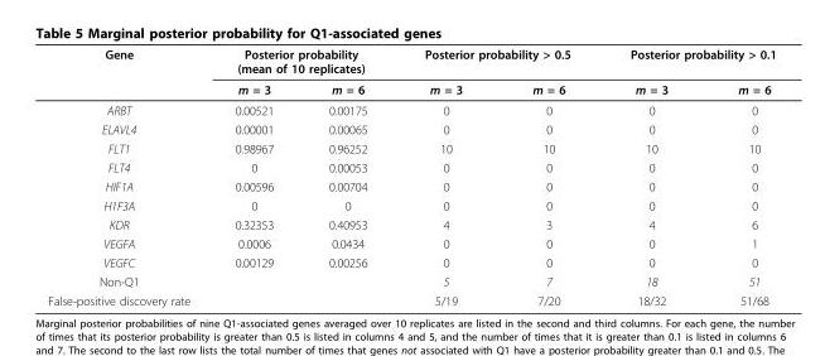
<table><thead><tr><td rowspan="2">Gene</td><td colspan="2">Posterior probability (mean of 10 replicates)</td><td colspan="2">Posterior probability &gt; 0.5</td><td colspan="2">Posterior probability &gt; 0.1</td></tr><tr><td>m = 3</td><td>m = 6</td><td>m = 3</td><td>m = 6</td><td>m = 3</td><td>m = 6</td></tr></thead><tbody><tr><td>ARBT</td><td>0.00521</td><td>0.00175</td><td>0</td><td>0</td><td>0</td><td>0</td></tr><tr><td>ELAVL4</td><td>0.00001</td><td>0.00065</td><td>0</td><td>0</td><td>0</td><td>0</td></tr><tr><td>FLT1</td><td>0.98967</td><td>0.96252</td><td>10</td><td>10</td><td>10</td><td>10</td></tr><tr><td>FLT4</td><td>0</td><td>0.00053</td><td>0</td><td>0</td><td>0</td><td>0</td></tr><tr><td>HIF1A</td><td>0.00596</td><td>0.00704</td><td>0</td><td>0</td><td>0</td><td>0</td></tr><tr><td>H1F3A</td><td>0</td><td>0</td><td>0</td><td>0</td><td>0</td><td>0</td></tr><tr><td>KDR</td><td>0.32353</td><td>0.40953</td><td>4</td><td>3</td><td>4</td><td>6</td></tr><tr><td>VEGFA</td><td>0.0006</td><td>0.0434</td><td>0</td><td>0</td><td>0</td><td>1</td></tr><tr><td>VEGFC</td><td>0.00129</td><td>0.00256</td><td>0</td><td>0</td><td>0</td><td>0</td></tr><tr><td>Non-Q1</td><td></td><td></td><td>5</td><td>7</td><td>18</td><td>51</td></tr><tr><td>False-positive discovery rate</td><td></td><td></td><td>5/19</td><td>7/20</td><td>18/32</td><td>51/68</td></tr></tbody></table>